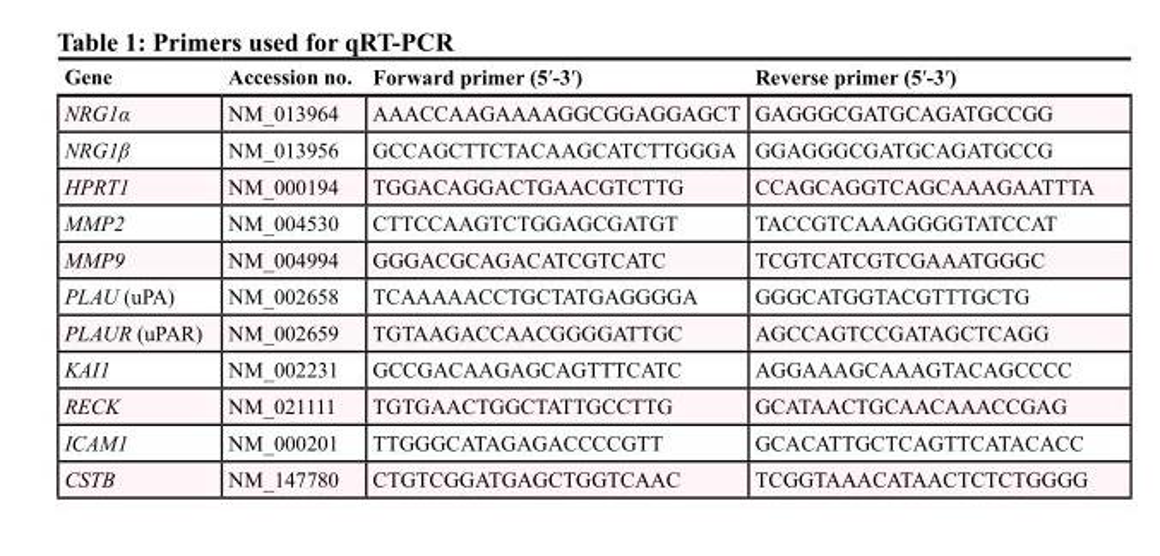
<table><thead><tr><td>Gene</td><td>Accession no.</td><td>Forward primer (5′-3′)</td><td>Reverse primer (5′-3′)</td></tr></thead><tbody><tr><td>NRG1α</td><td>NM_013964</td><td>AAACCAAGAAAAGGCGGAGGAGCT</td><td>GAGGGCGATGCAGATGCCGG</td></tr><tr><td>NRG1β</td><td>NM_013956</td><td>GCCAGCTTCTACAAGCATCTTGGGA</td><td>GGAGGGCGATGCAGATGCCG</td></tr><tr><td>HPRT1</td><td>NM_000194</td><td>TGGACAGGACTGAACGTCTTG</td><td>CCAGCAGGTCAGCAAAGAATTTA</td></tr><tr><td>MMP2</td><td>NM_004530</td><td>CTTCCAAGTCTGGAGCGATGT</td><td>TACCGTCAAAGGGGTATCCAT</td></tr><tr><td>MMP9</td><td>NM_004994</td><td>GGGACGCAGACATCGTCATC</td><td>TCGTCATCGTCGAAATGGGC</td></tr><tr><td>PLAU (uPA)</td><td>NM_002658</td><td>TCAAAAACCTGCTATGAGGGGA</td><td>GGGCATGGTACGTTTGCTG</td></tr><tr><td>PLAUR (uPAR)</td><td>NM_002659</td><td>TGTAAGACCAACGGGGATTGC</td><td>AGCCAGTCCGATAGCTCAGG</td></tr><tr><td>KAI1</td><td>NM_002231</td><td>GCCGACAAGAGCAGTTTCATC</td><td>AGGAAAGCAAAGTACAGCCCC</td></tr><tr><td>RECK</td><td>NM_021111</td><td>TGTGAACTGGCTATTGCCTTG</td><td>GCATAACTGCAACAAACCGAG</td></tr><tr><td>ICAM1</td><td>NM_000201</td><td>TTGGGCATAGAGACCCCGTT</td><td>GCACATTGCTCAGTTCATACACC</td></tr><tr><td>CSTB</td><td>NM_147780</td><td>CTGTCGGATGAGCTGGTCAAC</td><td>TCGGTAAACATAACTCTCTGGGG</td></tr></tbody></table>